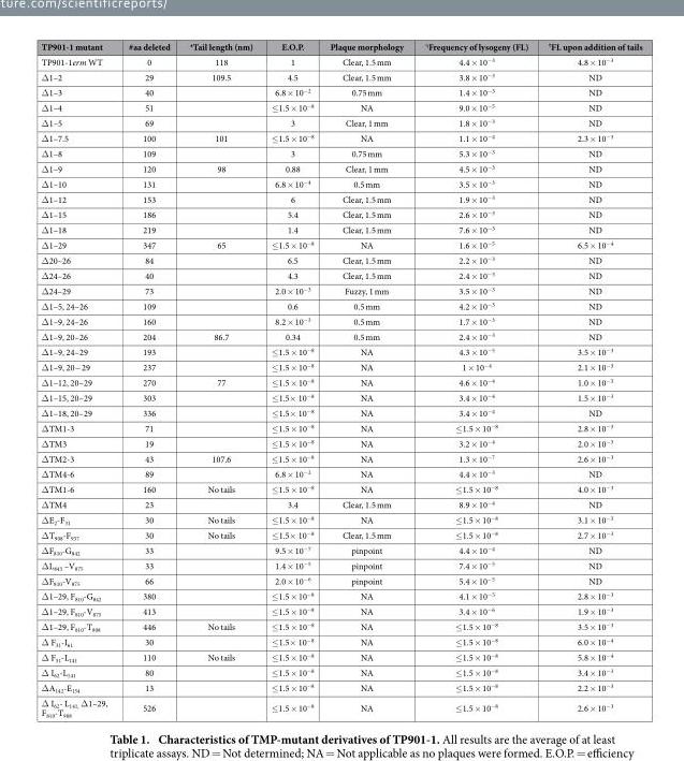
<table><thead><tr><td>TP901-1 mutant</td><td>#aa deleted</td><td>ᴥTail length (nm)</td><td>E.O.P.</td><td>Plaque morphology</td><td><sup>γ</sup>Frequency of lysogeny (FL)</td><td>ϮFL upon addition of tails</td></tr></thead><tbody><tr><td>TP901-1erm WT</td><td>0</td><td>118</td><td>1</td><td>Clear, 1.5 mm</td><td>4.4 × 10<sup>−3</sup></td><td>4.8 × 10<sup>−3</sup></td></tr><tr><td>Δ 1–2</td><td>29</td><td>109.5</td><td>4.5</td><td>Clear, 1.5 mm</td><td>3.8 × 10<sup>−3</sup></td><td>ND</td></tr><tr><td>Δ 1–3</td><td>40</td><td></td><td>6.8 × 10<sup>−2</sup></td><td>0.75 mm</td><td>1.4 × 10<sup>−3</sup></td><td>ND</td></tr><tr><td>Δ 1–4</td><td>51</td><td></td><td>≤ 1.5 × 10<sup>−8</sup></td><td>NA</td><td>9.0 × 10<sup>−5</sup></td><td>ND</td></tr><tr><td>Δ 1–5</td><td>69</td><td></td><td>3</td><td>Clear, 1 mm</td><td>1.8 × 10<sup>−3</sup></td><td>ND</td></tr><tr><td>Δ 1–7.5</td><td>100</td><td>101</td><td>≤ 1.5 × 10<sup>−8</sup></td><td>NA</td><td>1.1 × 10<sup>−4</sup></td><td>2.3 × 10<sup>−3</sup></td></tr><tr><td>Δ 1–8</td><td>109</td><td></td><td>3</td><td>0.75 mm</td><td>5.3 × 10<sup>−3</sup></td><td>ND</td></tr><tr><td>Δ 1–9</td><td>120</td><td>98</td><td>0.88</td><td>Clear, 1 mm</td><td>4.5 × 10<sup>−3</sup></td><td>ND</td></tr><tr><td>Δ 1–10</td><td>131</td><td></td><td>6.8 × 10<sup>−4</sup></td><td>0.5 mm</td><td>3.5 × 10<sup>−3</sup></td><td>ND</td></tr><tr><td>Δ 1–12</td><td>153</td><td></td><td>6</td><td>Clear, 1.5 mm</td><td>1.9 × 10<sup>−3</sup></td><td>ND</td></tr><tr><td>Δ 1–15</td><td>186</td><td></td><td>5.4</td><td>Clear, 1.5 mm</td><td>2.6 × 10<sup>−3</sup></td><td>ND</td></tr><tr><td>Δ 1–18</td><td>219</td><td></td><td>1.4</td><td>Clear, 1.5 mm</td><td>7.6 × 10<sup>−3</sup></td><td>ND</td></tr><tr><td>Δ 1–29</td><td>347</td><td>65</td><td>≤ 1.5 × 10<sup>−8</sup></td><td>NA</td><td>1.6 × 10<sup>−5</sup></td><td>6.5 × 10<sup>−4</sup></td></tr><tr><td>Δ 20–26</td><td>84</td><td></td><td>6.5</td><td>Clear, 1.5 mm</td><td>2.2 × 10<sup>−3</sup></td><td>ND</td></tr><tr><td>Δ 24–26</td><td>40</td><td></td><td>4.3</td><td>Clear, 1.5 mm</td><td>2.4 × 10<sup>−3</sup></td><td>ND</td></tr><tr><td>Δ 24–29</td><td>73</td><td></td><td>2.0 × 10<sup>−3</sup></td><td>Fuzzy, 1 mm</td><td>3.5 × 10<sup>−3</sup></td><td>ND</td></tr><tr><td>Δ 1–5, 24–26</td><td>109</td><td></td><td>0.6</td><td>0.5 mm</td><td>4.2 × 10<sup>−3</sup></td><td>ND</td></tr><tr><td>Δ 1–9, 24–26</td><td>160</td><td></td><td>8.2 × 10<sup>−3</sup></td><td>0.5 mm</td><td>1.7 × 10<sup>−3</sup></td><td>ND</td></tr><tr><td>Δ 1–9, 20–26</td><td>204</td><td>86.7</td><td>0.34</td><td>0.5 mm</td><td>2.4 × 10<sup>−3</sup></td><td>ND</td></tr><tr><td>Δ 1–9, 24–29</td><td>193</td><td></td><td>≤ 1.5 × 10<sup>−8</sup></td><td>NA</td><td>4.3 × 10<sup>−5</sup></td><td>3.5 × 10<sup>−3</sup></td></tr><tr><td>Δ 1–9, 20− 29</td><td>237</td><td></td><td>≤ 1.5 × 10<sup>−8</sup></td><td>NA</td><td>1 × 10<sup>−4</sup></td><td>2.1 × 10<sup>−3</sup></td></tr><tr><td>Δ 1–12, 20–29</td><td>270</td><td>77</td><td>≤ 1.5 × 10<sup>−8</sup></td><td>NA</td><td>4.6 × 10<sup>−4</sup></td><td>1.0 × 10<sup>−3</sup></td></tr><tr><td>Δ 1–15, 20–29</td><td>303</td><td></td><td>≤ 1.5× 10<sup>−8</sup></td><td>NA</td><td>3.4 × 10<sup>−4</sup></td><td>1.5 × 10<sup>−3</sup></td></tr><tr><td>Δ 1–18, 20–29</td><td>336</td><td></td><td>≤ 1.5× 10<sup>−8</sup></td><td>NA</td><td>3.4 × 10<sup>−4</sup></td><td>ND</td></tr><tr><td>Δ TM1-3</td><td>71</td><td></td><td>≤ 1.5 × 10<sup>−8</sup></td><td>NA</td><td>≤ 1.5 × 10<sup>−8</sup></td><td>2.8 × 10<sup>−3</sup></td></tr><tr><td>Δ TM3</td><td>19</td><td></td><td>≤ 1.5 × 10<sup>−8</sup></td><td>NA</td><td>3.2 × 10<sup>−4</sup></td><td>2.0 × 10<sup>−3</sup></td></tr><tr><td>Δ TM2-3</td><td>43</td><td>107.6</td><td>≤ 1.5 × 10<sup>−8</sup></td><td>NA</td><td>1.3 × 10<sup>−7</sup></td><td>2.6 × 10<sup>−3</sup></td></tr><tr><td>Δ TM4-6</td><td>89</td><td></td><td>6.8 × 10<sup>−2</sup></td><td>NA</td><td>4.4 × 10<sup>−3</sup></td><td>ND</td></tr><tr><td>Δ TM1-6</td><td>160</td><td>No tails</td><td>≤ 1.5 × 10<sup>−8</sup></td><td>NA</td><td>≤ 1.5 × 10<sup>−8</sup></td><td>4.0 × 10<sup>−3</sup></td></tr><tr><td>Δ TM4</td><td>23</td><td></td><td>3.4</td><td>Clear, 1.5 mm</td><td>8.9 × 10<sup>−4</sup></td><td>ND</td></tr><tr><td>Δ E<sub>2</sub>-F<sub>31</sub></td><td>30</td><td>No tails</td><td>≤ 1.5 × 10<sup>−8</sup></td><td>NA</td><td>≤ 1.5 × 10<sup>−8</sup></td><td>3.1 × 10<sup>−3</sup></td></tr><tr><td>Δ T<sub>908</sub>-F<sub>937</sub></td><td>30</td><td>No tails</td><td>≤ 1.5× 10<sup>−8</sup></td><td>Clear, 1.5 mm</td><td>≤ 1.5 × 10<sup>−8</sup></td><td>2.7 × 10<sup>−3</sup></td></tr><tr><td>Δ F<sub>810</sub>-G<sub>842</sub></td><td>33</td><td></td><td>9.5 × 10<sup>−7</sup></td><td>pinpoint</td><td>4.4 × 10<sup>−4</sup></td><td>ND</td></tr><tr><td>Δ L<sub>843</sub> –V<sub>875</sub></td><td>33</td><td></td><td>1.4 × 10<sup>−5</sup></td><td>pinpoint</td><td>7.4 × 10<sup>−5</sup></td><td>ND</td></tr><tr><td>Δ F<sub>810</sub>-V<sub>875</sub></td><td>66</td><td></td><td>2.0 × 10<sup>−6</sup></td><td>pinpoint</td><td>5.4 × 10<sup>−5</sup></td><td>ND</td></tr><tr><td>Δ 1–29, F<sub>810</sub>-G<sub>842</sub></td><td>380</td><td></td><td>≤ 1.5 × 10<sup>−8</sup></td><td>NA</td><td>4.1 × 10<sup>−5</sup></td><td>2.8 × 10<sup>−3</sup></td></tr><tr><td>Δ 1–29, F<sub>810</sub>-V<sub>875</sub></td><td>413</td><td></td><td>≤ 1.5 × 10<sup>−8</sup></td><td>NA</td><td>3.4 × 10<sup>−6</sup></td><td>1.9 × 10<sup>−3</sup></td></tr><tr><td>Δ 1–29, F<sub>810</sub>-T<sub>908</sub></td><td>446</td><td>No tails</td><td>≤ 1.5 × 10<sup>−8</sup></td><td>NA</td><td>≤ 1.5 × 10<sup>−8</sup></td><td>3.5 × 10<sup>−3</sup></td></tr><tr><td>Δ F<sub>31</sub>-I<sub>61</sub></td><td>30</td><td></td><td>≤ 1.5× 10<sup>−8</sup></td><td>NA</td><td>≤ 1.5 × 10<sup>−8</sup></td><td>6.0 × 10<sup>−4</sup></td></tr><tr><td>Δ F<sub>31</sub>-L<sub>141</sub></td><td>110</td><td>No tails</td><td>≤ 1.5 × 10<sup>−8</sup></td><td>NA</td><td>≤ 1.5 × 10<sup>−8</sup></td><td>5.8 × 10<sup>−4</sup></td></tr><tr><td>Δ I<sub>62</sub>-L<sub>141</sub></td><td>80</td><td></td><td>≤ 1.5 × 10<sup>−8</sup></td><td>NA</td><td>≤ 1.5 × 10<sup>−8</sup></td><td>3.4 × 10<sup>−3</sup></td></tr><tr><td>Δ A<sub>142</sub>-E<sub>154</sub></td><td>13</td><td></td><td>≤ 1.5 × 10<sup>−8</sup></td><td>NA</td><td>≤ 1.5 × 10<sup>−8</sup></td><td>2.2 × 10<sup>−3</sup></td></tr><tr><td>Δ I<sub>62</sub>- L<sub>141,</sub> Δ 1–29, F<sub>810</sub>-T<sub>908</sub></td><td>526</td><td></td><td>≤ 1.5 × 10<sup>−8</sup></td><td>NA</td><td>≤ 1.5 × 10<sup>−8</sup></td><td>2.6 × 10<sup>−3</sup></td></tr></tbody></table>